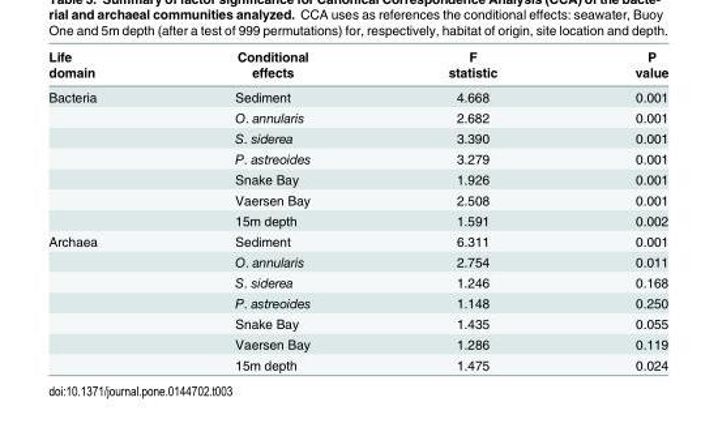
<table><thead><tr><td rowspan="2">Life domain</td><td rowspan="2">Conditional effects</td><td rowspan="2">F statistic</td><td rowspan="2">P value</td></tr><tr></tr></thead><tbody><tr><td rowspan="7">Bacteria</td><td>Sediment</td><td>4.668</td><td>0.001</td></tr><tr><td>O. annularis</td><td>2.682</td><td>0.001</td></tr><tr><td>S. siderea</td><td>3.390</td><td>0.001</td></tr><tr><td>P. astreoides</td><td>3.279</td><td>0.001</td></tr><tr><td>Snake Bay</td><td>1.926</td><td>0.001</td></tr><tr><td>Vaersen Bay</td><td>2.508</td><td>0.001</td></tr><tr><td>15m depth</td><td>1.591</td><td>0.002</td></tr><tr><td rowspan="7">Archaea</td><td>Sediment</td><td>6.311</td><td>0.001</td></tr><tr><td>O. annularis</td><td>2.754</td><td>0.011</td></tr><tr><td>S. siderea</td><td>1.246</td><td>0.168</td></tr><tr><td>P. astreoides</td><td>1.148</td><td>0.250</td></tr><tr><td>Snake Bay</td><td>1.435</td><td>0.055</td></tr><tr><td>Vaersen Bay</td><td>1.286</td><td>0.119</td></tr><tr><td>15m depth</td><td>1.475</td><td>0.024</td></tr></tbody></table>